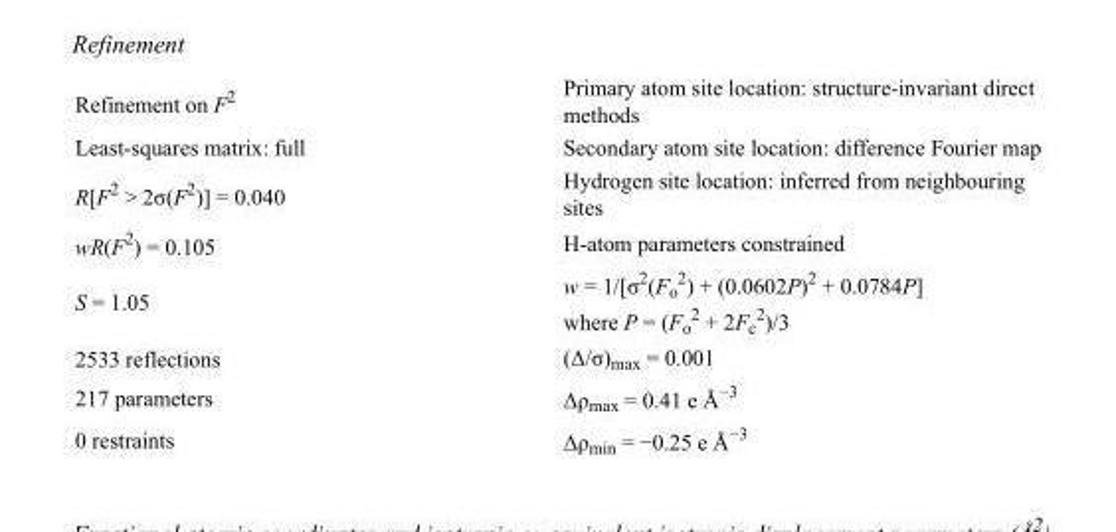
<table><tbody><tr><td>Refinement on F<sup>2</sup></td><td>Primary atom site location: structure-invariant direct methods</td></tr><tr><td>Least-squares matrix: full</td><td>Secondary atom site location: difference Fourier map</td></tr><tr><td>R[F<sup>2</sup> &gt; 2σ(F<sup>2</sup>)] = 0.040</td><td>Hydrogen site location: inferred from neighbouring sites</td></tr><tr><td>wR(F<sup>2</sup>) = 0.105</td><td>H-atom parameters constrained</td></tr><tr><td>S = 1.05</td><td>w = 1/[σ<sup>2</sup>(F<sub>o</sub> <sup>2</sup>) + (0.0602P)<sup>2</sup> + 0.0784P] where P = (F<sub>o</sub> <sup>2</sup> + 2F<sub>c</sub> <sup>2</sup>)/3</td></tr><tr><td>2533 reflections</td><td>(Δ/σ)<sub>max</sub> = 0.001</td></tr><tr><td>217 parameters</td><td>Δρ<sub>max</sub> = 0.41 e Å<sup>−3</sup></td></tr><tr><td>0 restraints</td><td>Δρ<sub>min</sub> = −0.25 e Å<sup>−3</sup></td></tr></tbody></table>